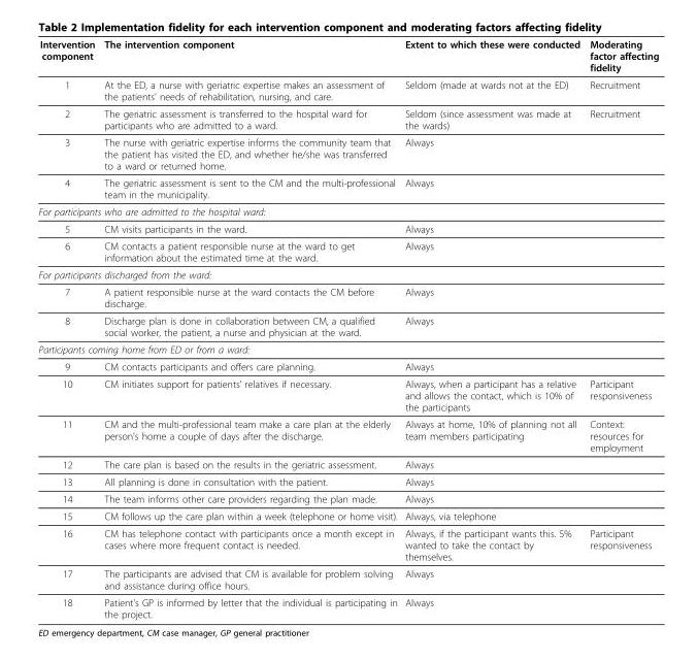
<table><thead><tr><td>Intervention component</td><td>The intervention component</td><td>Extent to which these were conducted</td><td>Moderating factor affecting fidelity</td></tr></thead><tbody><tr><td>1</td><td>At the ED, a nurse with geriatric expertise makes an assessment of the patients’ needs of rehabilitation, nursing, and care.</td><td>Seldom (made at wards not at the ED)</td><td>Recruitment</td></tr><tr><td>2</td><td>The geriatric assessment is transferred to the hospital ward for participants who are admitted to a ward.</td><td>Seldom (since assessment was made at the wards)</td><td>Recruitment</td></tr><tr><td>3</td><td>The nurse with geriatric expertise informs the community team that the patient has visited the ED, and whether he/she was transferred to a ward or returned home.</td><td>Always</td><td></td></tr><tr><td>4</td><td>The geriatric assessment is sent to the CM and the multi-professional team in the municipality.</td><td>Always</td><td></td></tr><tr><td colspan="4">For participants who are admitted to the hospital ward:</td></tr><tr><td>5</td><td>CM visits participants in the ward.</td><td>Always</td><td></td></tr><tr><td>6</td><td>CM contacts a patient responsible nurse at the ward to get information about the estimated time at the ward.</td><td>Always</td><td></td></tr><tr><td colspan="4">For participants discharged from the ward:</td></tr><tr><td>7</td><td>A patient responsible nurse at the ward contacts the CM before discharge.</td><td>Always</td><td></td></tr><tr><td>8</td><td>Discharge plan is done in collaboration between CM, a qualified social worker, the patient, a nurse and physician at the ward.</td><td>Always</td><td></td></tr><tr><td colspan="4">Participants coming home from ED or from a ward:</td></tr><tr><td>9</td><td>CM contacts participants and offers care planning.</td><td>Always</td><td></td></tr><tr><td>10</td><td>CM initiates support for patients’ relatives if necessary.</td><td>Always, when a participant has a relative and allows the contact, which is 10% of the participants</td><td>Participant responsiveness</td></tr><tr><td>11</td><td>CM and the multi-professional team make a care plan at the elderly person’s home a couple of days after the discharge.</td><td>Always at home, 10% of planning not all team members participating</td><td>Context: resources for employment</td></tr><tr><td>12</td><td>The care plan is based on the results in the geriatric assessment.</td><td>Always</td><td></td></tr><tr><td>13</td><td>All planning is done in consultation with the patient.</td><td>Always</td><td></td></tr><tr><td>14</td><td>The team informs other care providers regarding the plan made.</td><td>Always</td><td></td></tr><tr><td>15</td><td>CM follows up the care plan within a week (telephone or home visit).</td><td>Always, via telephone</td><td></td></tr><tr><td>16</td><td>CM has telephone contact with participants once a month except in cases where more frequent contact is needed.</td><td>Always, if the participant wants this. 5% wanted to take the contact by themselves.</td><td>Participant responsiveness</td></tr><tr><td>17</td><td>The participants are advised that CM is available for problem solving and assistance during office hours.</td><td>Always</td><td></td></tr><tr><td>18</td><td>Patient’s GP is informed by letter that the individual is participating in the project.</td><td>Always</td><td></td></tr></tbody></table>